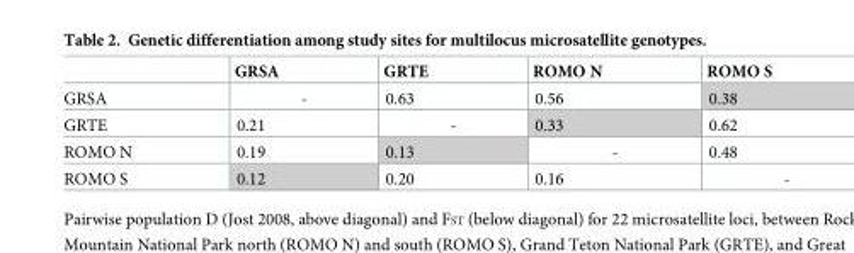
<table><thead><tr><td></td><td>GRSA</td><td>GRTE</td><td>ROMO N</td><td>ROMO S</td></tr></thead><tbody><tr><td>GRSA</td><td>-</td><td>0.63</td><td>0.56</td><td>0.38</td></tr><tr><td>GRTE</td><td>0.21</td><td>-</td><td>0.33</td><td>0.62</td></tr><tr><td>ROMO N</td><td>0.19</td><td>0.13</td><td>-</td><td>0.48</td></tr><tr><td>ROMO S</td><td>0.12</td><td>0.20</td><td>0.16</td><td>-</td></tr></tbody></table>